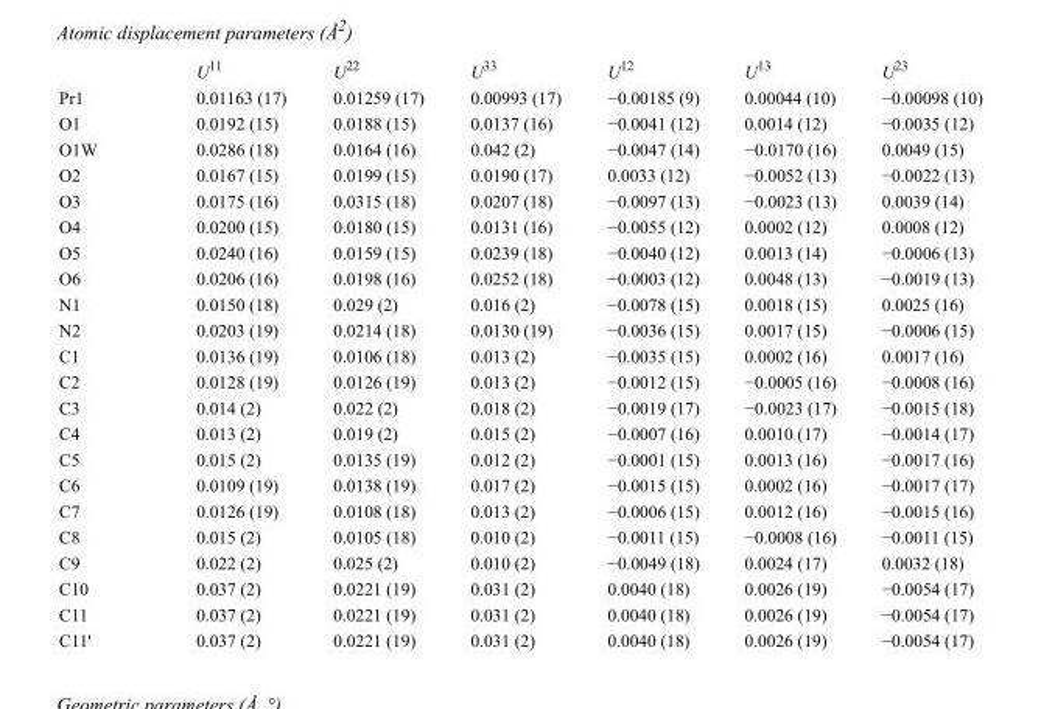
<table><thead><tr><td></td><td>U<sup>11</sup></td><td>U<sup>22</sup></td><td>U<sup>33</sup></td><td>U<sup>12</sup></td><td>U<sup>13</sup></td><td>U<sup>23</sup></td></tr></thead><tbody><tr><td>Pr1</td><td>0.01163 (17)</td><td>0.01259 (17)</td><td>0.00993 (17)</td><td>−0.00185 (9)</td><td>0.00044 (10)</td><td>−0.00098 (10)</td></tr><tr><td>O1</td><td>0.0192 (15)</td><td>0.0188 (15)</td><td>0.0137 (16)</td><td>−0.0041 (12)</td><td>0.0014 (12)</td><td>−0.0035 (12)</td></tr><tr><td>O1W</td><td>0.0286 (18)</td><td>0.0164 (16)</td><td>0.042 (2)</td><td>−0.0047 (14)</td><td>−0.0170 (16)</td><td>0.0049 (15)</td></tr><tr><td>O2</td><td>0.0167 (15)</td><td>0.0199 (15)</td><td>0.0190 (17)</td><td>0.0033 (12)</td><td>−0.0052 (13)</td><td>−0.0022 (13)</td></tr><tr><td>O3</td><td>0.0175 (16)</td><td>0.0315 (18)</td><td>0.0207 (18)</td><td>−0.0097 (13)</td><td>−0.0023 (13)</td><td>0.0039 (14)</td></tr><tr><td>O4</td><td>0.0200 (15)</td><td>0.0180 (15)</td><td>0.0131 (16)</td><td>−0.0055 (12)</td><td>0.0002 (12)</td><td>0.0008 (12)</td></tr><tr><td>O5</td><td>0.0240 (16)</td><td>0.0159 (15)</td><td>0.0239 (18)</td><td>−0.0040 (12)</td><td>0.0013 (14)</td><td>−0.0006 (13)</td></tr><tr><td>O6</td><td>0.0206 (16)</td><td>0.0198 (16)</td><td>0.0252 (18)</td><td>−0.0003 (12)</td><td>0.0048 (13)</td><td>−0.0019 (13)</td></tr><tr><td>N1</td><td>0.0150 (18)</td><td>0.029 (2)</td><td>0.016 (2)</td><td>−0.0078 (15)</td><td>0.0018 (15)</td><td>0.0025 (16)</td></tr><tr><td>N2</td><td>0.0203 (19)</td><td>0.0214 (18)</td><td>0.0130 (19)</td><td>−0.0036 (15)</td><td>0.0017 (15)</td><td>−0.0006 (15)</td></tr><tr><td>C1</td><td>0.0136 (19)</td><td>0.0106 (18)</td><td>0.013 (2)</td><td>−0.0035 (15)</td><td>0.0002 (16)</td><td>0.0017 (16)</td></tr><tr><td>C2</td><td>0.0128 (19)</td><td>0.0126 (19)</td><td>0.013 (2)</td><td>−0.0012 (15)</td><td>−0.0005 (16)</td><td>−0.0008 (16)</td></tr><tr><td>C3</td><td>0.014 (2)</td><td>0.022 (2)</td><td>0.018 (2)</td><td>−0.0019 (17)</td><td>−0.0023 (17)</td><td>−0.0015 (18)</td></tr><tr><td>C4</td><td>0.013 (2)</td><td>0.019 (2)</td><td>0.015 (2)</td><td>−0.0007 (16)</td><td>0.0010 (17)</td><td>−0.0014 (17)</td></tr><tr><td>C5</td><td>0.015 (2)</td><td>0.0135 (19)</td><td>0.012 (2)</td><td>−0.0001 (15)</td><td>0.0013 (16)</td><td>−0.0017 (16)</td></tr><tr><td>C6</td><td>0.0109 (19)</td><td>0.0138 (19)</td><td>0.017 (2)</td><td>−0.0015 (15)</td><td>0.0002 (16)</td><td>−0.0017 (17)</td></tr><tr><td>C7</td><td>0.0126 (19)</td><td>0.0108 (18)</td><td>0.013 (2)</td><td>−0.0006 (15)</td><td>0.0012 (16)</td><td>−0.0015 (16)</td></tr><tr><td>C8</td><td>0.015 (2)</td><td>0.0105 (18)</td><td>0.010 (2)</td><td>−0.0011 (15)</td><td>−0.0008 (16)</td><td>−0.0011 (15)</td></tr><tr><td>C9</td><td>0.022 (2)</td><td>0.025 (2)</td><td>0.010 (2)</td><td>−0.0049 (18)</td><td>0.0024 (17)</td><td>0.0032 (18)</td></tr><tr><td>C10</td><td>0.037 (2)</td><td>0.0221 (19)</td><td>0.031 (2)</td><td>0.0040 (18)</td><td>0.0026 (19)</td><td>−0.0054 (17)</td></tr><tr><td>C11</td><td>0.037 (2)</td><td>0.0221 (19)</td><td>0.031 (2)</td><td>0.0040 (18)</td><td>0.0026 (19)</td><td>−0.0054 (17)</td></tr><tr><td>C11&#x27;</td><td>0.037 (2)</td><td>0.0221 (19)</td><td>0.031 (2)</td><td>0.0040 (18)</td><td>0.0026 (19)</td><td>−0.0054 (17)</td></tr></tbody></table>